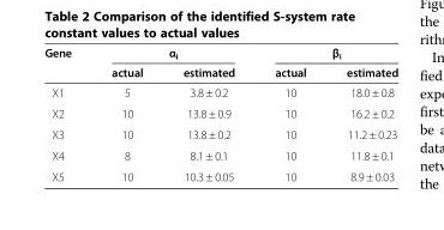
<table><thead><tr><td rowspan="2">Gene</td><td colspan="2">α<sub>i</sub></td><td colspan="2">β<sub>i</sub></td></tr><tr><td>actual</td><td>estimated</td><td>actual</td><td>estimated</td></tr></thead><tbody><tr><td>X1</td><td>5</td><td>3.8 ± 0.2</td><td>10</td><td>18.0 ± 0.8</td></tr><tr><td>X2</td><td>10</td><td>13.8 ± 0.9</td><td>10</td><td>16.2 ± 0.2</td></tr><tr><td>X3</td><td>10</td><td>13.8 ± 0.2</td><td>10</td><td>11.2 ± 0.23</td></tr><tr><td>X4</td><td>8</td><td>8.1 ± 0.1</td><td>10</td><td>11.8 ± 0.1</td></tr><tr><td>X5</td><td>10</td><td>10.3 ± 0.05</td><td>10</td><td>8.9 ± 0.03</td></tr></tbody></table>